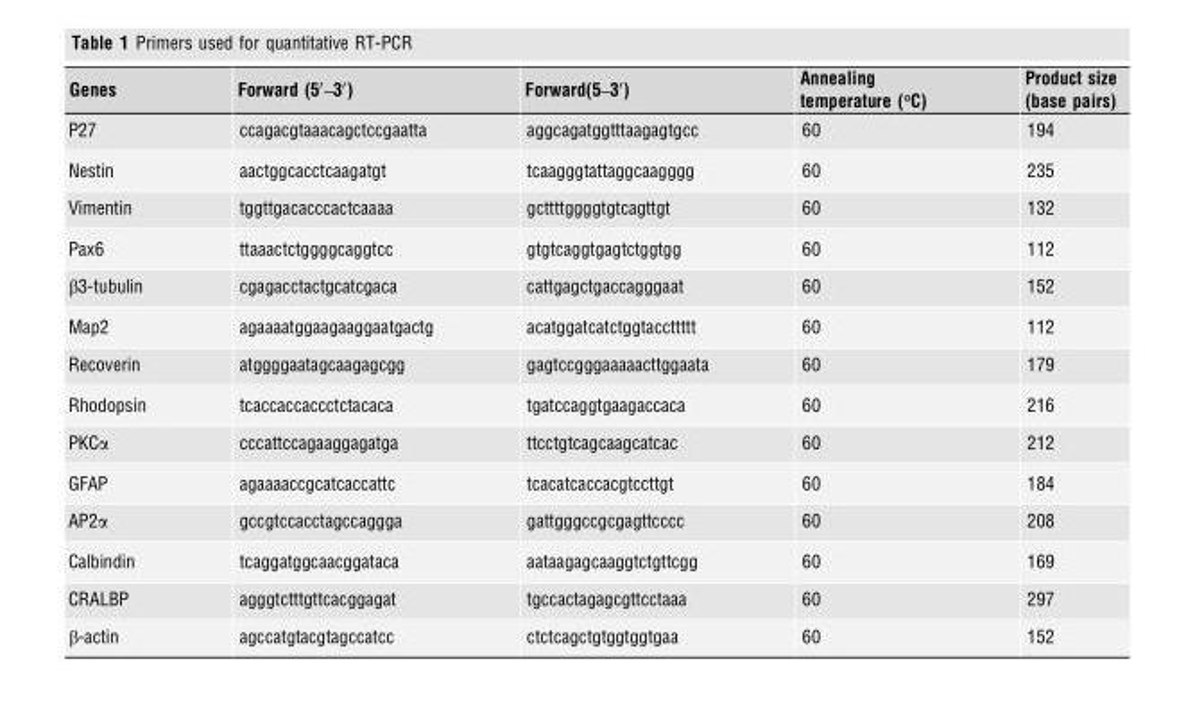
<table><thead><tr><td>Genes</td><td>Forward (5′–3′)</td><td>Forward(5–3′)</td><td>Annealing temperature (°C)</td><td>Product size (base pairs)</td></tr></thead><tbody><tr><td>P27</td><td>ccagacgtaaacagctccgaatta</td><td>aggcagatggtttaagagtgcc</td><td>60</td><td>194</td></tr><tr><td>Nestin</td><td>aactggcacctcaagatgt</td><td>tcaagggtattaggcaagggg</td><td>60</td><td>235</td></tr><tr><td>Vimentin</td><td>tggttgacacccactcaaaa</td><td>gcttttggggtgtcagttgt</td><td>60</td><td>132</td></tr><tr><td>Pax6</td><td>ttaaactctggggcaggtcc</td><td>gtgtcaggtgagtctggtgg</td><td>60</td><td>112</td></tr><tr><td>β3-tubulin</td><td>cgagacctactgcatcgaca</td><td>cattgagctgaccagggaat</td><td>60</td><td>152</td></tr><tr><td>Map2</td><td>agaaaatggaagaaggaatgactg</td><td>acatggatcatctggtaccttttt</td><td>60</td><td>112</td></tr><tr><td>Recoverin</td><td>atggggaatagcaagagcgg</td><td>gagtccgggaaaaacttggaata</td><td>60</td><td>179</td></tr><tr><td>Rhodopsin</td><td>tcaccaccaccctctacaca</td><td>tgatccaggtgaagaccaca</td><td>60</td><td>216</td></tr><tr><td>PKCα</td><td>cccattccagaaggagatga</td><td>ttcctgtcagcaagcatcac</td><td>60</td><td>212</td></tr><tr><td>GFAP</td><td>agaaaaccgcatcaccattc</td><td>tcacatcaccacgtccttgt</td><td>60</td><td>184</td></tr><tr><td>AP2α</td><td>gccgtccacctagccaggga</td><td>gattgggccgcgagttcccc</td><td>60</td><td>208</td></tr><tr><td>Calbindin</td><td>tcaggatggcaacggataca</td><td>aataagagcaaggtctgttcgg</td><td>60</td><td>169</td></tr><tr><td>CRALBP</td><td>agggtctttgttcacggagat</td><td>tgccactagagcgttcctaaa</td><td>60</td><td>297</td></tr><tr><td>β-actin</td><td>agccatgtacgtagccatcc</td><td>ctctcagctgtggtggtgaa</td><td>60</td><td>152</td></tr></tbody></table>